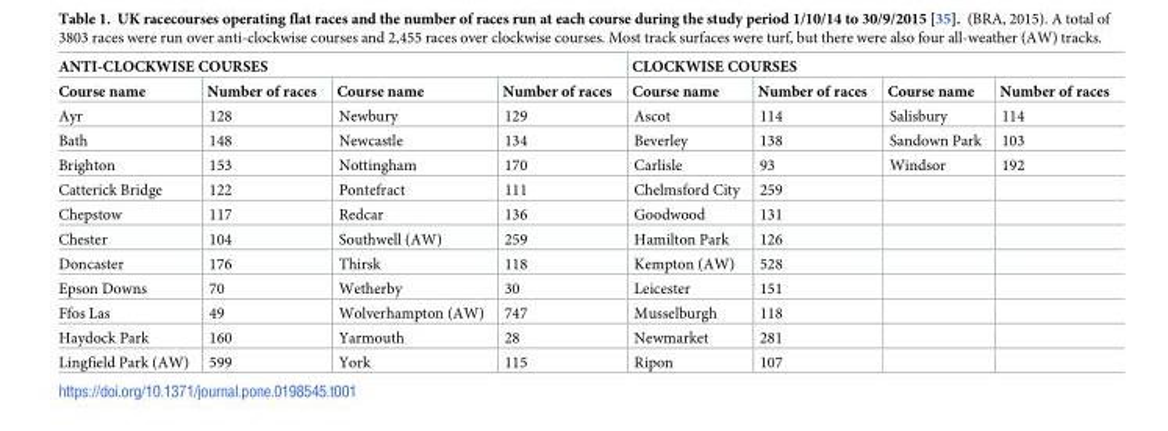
<table><thead><tr><td colspan="4">ANTI-CLOCKWISE COURSES</td><td colspan="4">CLOCKWISE COURSES</td></tr><tr><td>Course name</td><td>Number of races</td><td>Course name</td><td>Number of races</td><td>Course name</td><td>Number of races</td><td>Course name</td><td>Number of races</td></tr></thead><tbody><tr><td>Ayr</td><td>128</td><td>Newbury</td><td>129</td><td>Ascot</td><td>114</td><td>Salisbury</td><td>114</td></tr><tr><td>Bath</td><td>148</td><td>Newcastle</td><td>134</td><td>Beverley</td><td>138</td><td>Sandown Park</td><td>103</td></tr><tr><td>Brighton</td><td>153</td><td>Nottingham</td><td>170</td><td>Carlisle</td><td>93</td><td>Windsor</td><td>192</td></tr><tr><td>Catterick Bridge</td><td>122</td><td>Pontefract</td><td>111</td><td>Chelmsford City</td><td>259</td><td></td><td></td></tr><tr><td>Chepstow</td><td>117</td><td>Redcar</td><td>136</td><td>Goodwood</td><td>131</td><td></td><td></td></tr><tr><td>Chester</td><td>104</td><td>Southwell (AW)</td><td>259</td><td>Hamilton Park</td><td>126</td><td></td><td></td></tr><tr><td>Doncaster</td><td>176</td><td>Thirsk</td><td>118</td><td>Kempton (AW)</td><td>528</td><td></td><td></td></tr><tr><td>Epson Downs</td><td>70</td><td>Wetherby</td><td>30</td><td>Leicester</td><td>151</td><td></td><td></td></tr><tr><td>Ffos Las</td><td>49</td><td>Wolverhampton (AW)</td><td>747</td><td>Musselburgh</td><td>118</td><td></td><td></td></tr><tr><td>Haydock Park</td><td>160</td><td>Yarmouth</td><td>28</td><td>Newmarket</td><td>281</td><td></td><td></td></tr><tr><td>Lingfield Park (AW)</td><td>599</td><td>York</td><td>115</td><td>Ripon</td><td>107</td><td></td><td></td></tr></tbody></table>